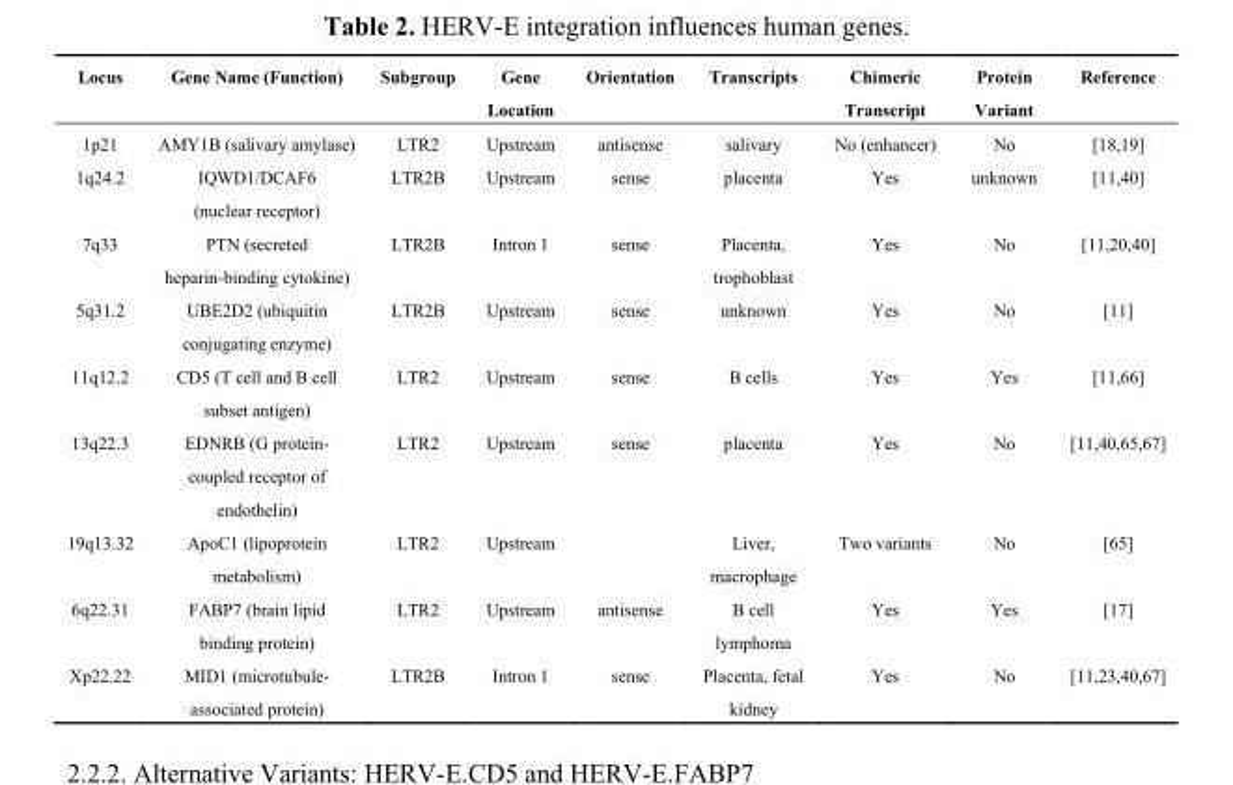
<table><thead><tr><td>Locus</td><td>Gene Name (Function)</td><td>Subgroup</td><td>Gene Location</td><td>Orientation</td><td>Transcripts</td><td>Chimeric Transcript</td><td>Protein Variant</td><td>Reference</td></tr></thead><tbody><tr><td>1p21</td><td>AMY1B (salivary amylase)</td><td>LTR2</td><td>Upstream</td><td>antisense</td><td>salivary</td><td>No (enhancer)</td><td>No</td><td>[18,19]</td></tr><tr><td>1q24.2</td><td>IQWD1/DCAF6 (nuclear receptor)</td><td>LTR2B</td><td>Upstream</td><td>sense</td><td>placenta</td><td>Yes</td><td>unknown</td><td>[11,40]</td></tr><tr><td>7q33</td><td>PTN (secreted heparin-binding cytokine)</td><td>LTR2B</td><td>Intron 1</td><td>sense</td><td>Placenta, trophoblast</td><td>Yes</td><td>No</td><td>[11,20,40]</td></tr><tr><td>5q31.2</td><td>UBE2D2 (ubiquitin conjugating enzyme)</td><td>LTR2B</td><td>Upstream</td><td>sense</td><td>unknown</td><td>Yes</td><td>No</td><td>[11]</td></tr><tr><td>11q12.2</td><td>CD5 (T cell and B cell subset antigen)</td><td>LTR2</td><td>Upstream</td><td>sense</td><td>B cells</td><td>Yes</td><td>Yes</td><td>[11,66]</td></tr><tr><td>13q22.3</td><td>EDNRB (G protein- coupled receptor of endothelin)</td><td>LTR2</td><td>Upstream</td><td>sense</td><td>placenta</td><td>Yes</td><td>No</td><td>[11,40,65,67]</td></tr><tr><td>19q13.32</td><td>ApoC1 (lipoprotein metabolism)</td><td>LTR2</td><td>Upstream</td><td></td><td>Liver, macrophage</td><td>Two variants</td><td>No</td><td>[65]</td></tr><tr><td>6q22.31</td><td>FABP7 (brain lipid binding protein)</td><td>LTR2</td><td>Upstream</td><td>antisense</td><td>B cell lymphoma</td><td>Yes</td><td>Yes</td><td>[17]</td></tr><tr><td>Xp22.22</td><td>MID1 (microtubule- associated protein)</td><td>LTR2B</td><td>Intron 1</td><td>sense</td><td>Placenta, fetal kidney</td><td>Yes</td><td>No</td><td>[11,23,40,67]</td></tr></tbody></table>